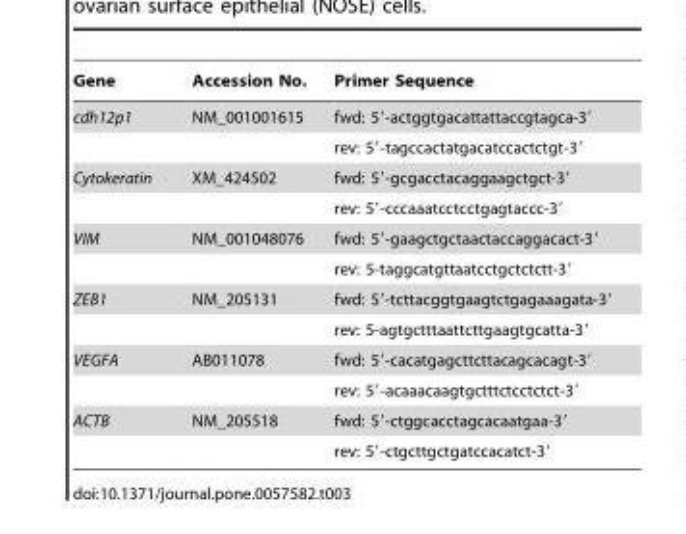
<table><thead><tr><td>Gene</td><td>Accession No.</td><td>Primer Sequence</td></tr></thead><tbody><tr><td rowspan="2">cdh12p1</td><td>NM_001001615</td><td>fwd: 5′-actggtgacattattaccgtagca-3′</td></tr><tr><td></td><td>rev: 5′-tagccactatgacatccactctgt-3′</td></tr><tr><td rowspan="2">Cytokeratin</td><td>XM_424502</td><td>fwd: 5′-gcgacctacaggaagctgct-3′</td></tr><tr><td></td><td>rev: 5′-cccaaatcctcctgagtaccc-3′</td></tr><tr><td rowspan="2">VIM</td><td>NM_001048076</td><td>fwd: 5′-gaagctgctaactaccaggacact-3′</td></tr><tr><td></td><td>rev: 5-taggcatgttaatcctgctctctt-3′</td></tr><tr><td rowspan="2">ZEB1</td><td>NM_205131</td><td>fwd: 5′-tcttacggtgaagtctgagaaagata-3′</td></tr><tr><td></td><td>rev: 5-agtgctttaattcttgaagtgcatta-3′</td></tr><tr><td rowspan="2">VEGFA</td><td>AB011078</td><td>fwd: 5′-cacatgagcttcttacagcacagt-3′</td></tr><tr><td></td><td>rev: 5′-acaaacaagtgctttctcctctct-3′</td></tr><tr><td rowspan="2">ACTB</td><td>NM_205518</td><td>fwd: 5′-ctggcacctagcacaatgaa-3′</td></tr><tr><td></td><td>rev: 5′-ctgcttgctgatccacatct-3′</td></tr></tbody></table>